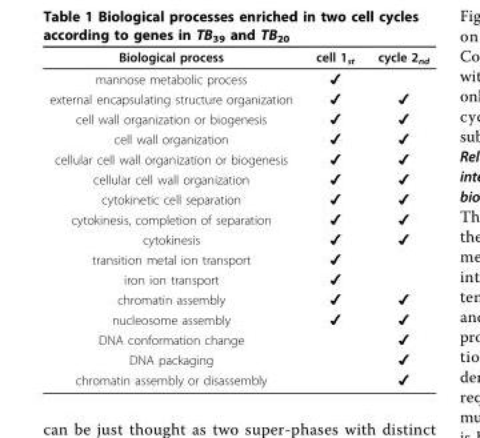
<table><thead><tr><td>Biological process</td><td>cell 1<sub>st</sub></td><td>cycle 2<sub>nd</sub></td></tr></thead><tbody><tr><td>mannose metabolic process</td><td>✔</td><td></td></tr><tr><td>external encapsulating structure organization</td><td>✔</td><td>✔</td></tr><tr><td>cell wall organization or biogenesis</td><td>✔</td><td>✔</td></tr><tr><td>cell wall organization</td><td>✔</td><td>✔</td></tr><tr><td>cellular cell wall organization or biogenesis</td><td>✔</td><td>✔</td></tr><tr><td>cellular cell wall organization</td><td>✔</td><td>✔</td></tr><tr><td>cytokinetic cell separation</td><td>✔</td><td>✔</td></tr><tr><td>cytokinesis, completion of separation</td><td>✔</td><td>✔</td></tr><tr><td>cytokinesis</td><td>✔</td><td>✔</td></tr><tr><td>transition metal ion transport</td><td>✔</td><td></td></tr><tr><td>iron ion transport</td><td>✔</td><td></td></tr><tr><td>chromatin assembly</td><td>✔</td><td>✔</td></tr><tr><td>nucleosome assembly</td><td>✔</td><td>✔</td></tr><tr><td>DNA conformation change</td><td></td><td>✔</td></tr><tr><td>DNA packaging</td><td></td><td>✔</td></tr><tr><td>chromatin assembly or disassembly</td><td></td><td>✔</td></tr></tbody></table>